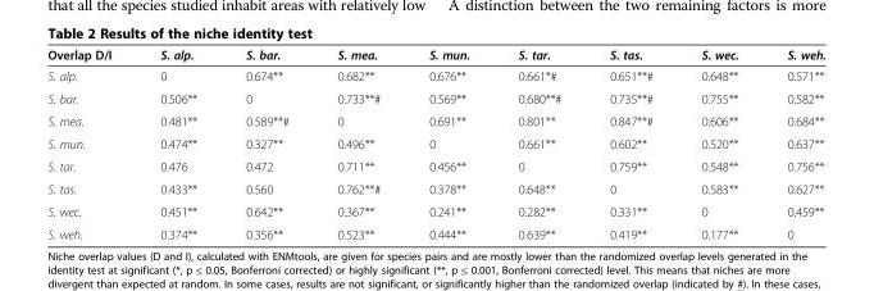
<table><thead><tr><td>Overlap D/I</td><td>S. alp.</td><td>S. bar.</td><td>S. mea.</td><td>S. mun.</td><td>S. tar.</td><td>S. tas.</td><td>S. wec.</td><td>S. weh.</td></tr></thead><tbody><tr><td>S. alp.</td><td>0</td><td>0.674**</td><td>0.682**</td><td>0.676**</td><td>0.661*#</td><td>0.651**#</td><td>0.648**</td><td>0.571**</td></tr><tr><td>S. bar.</td><td>0.506**</td><td>0</td><td>0.733**#</td><td>0.569**</td><td>0.680**#</td><td>0.735**#</td><td>0.755**</td><td>0.582**</td></tr><tr><td>S. mea.</td><td>0.481**</td><td>0.589**#</td><td>0</td><td>0.691**</td><td>0.801**</td><td>0.847**#</td><td>0.606**</td><td>0.684**</td></tr><tr><td>S. mun.</td><td>0.474**</td><td>0.327**</td><td>0.496**</td><td>0</td><td>0.661**</td><td>0.602**</td><td>0.520**</td><td>0.637**</td></tr><tr><td>S. tar.</td><td>0.476</td><td>0.472</td><td>0.711**</td><td>0.456**</td><td>0</td><td>0.759**</td><td>0.548**</td><td>0.756**</td></tr><tr><td>S. tas.</td><td>0.433**</td><td>0.560</td><td>0.762**#</td><td>0.378**</td><td>0.648**</td><td>0</td><td>0.583**</td><td>0.627**</td></tr><tr><td>S. wec.</td><td>0.451**</td><td>0.642**</td><td>0.367**</td><td>0.241**</td><td>0.282**</td><td>0.331**</td><td>0</td><td>0.459**</td></tr><tr><td>S. weh.</td><td>0.374**</td><td>0.356**</td><td>0.523**</td><td>0.444**</td><td>0.639**</td><td>0.419**</td><td>0.177**</td><td>0</td></tr></tbody></table>